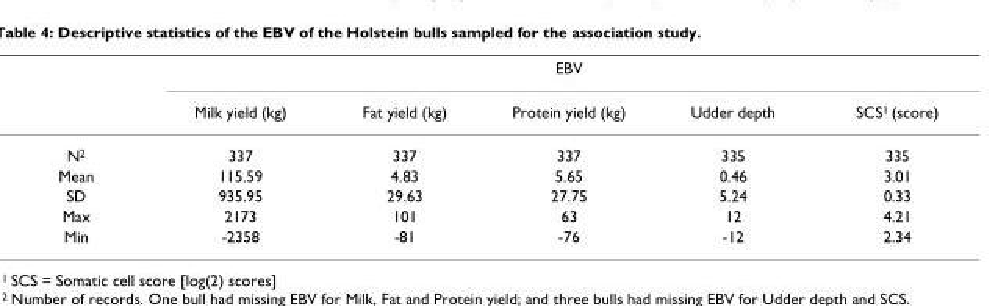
<table><thead><tr><td rowspan="2"></td><td colspan="5">EBV</td></tr><tr><td>Milk yield (kg)</td><td>Fat yield (kg)</td><td>Protein yield (kg)</td><td>Udder depth</td><td>SCS<sup>1</sup> (score)</td></tr></thead><tbody><tr><td>N<sup>2</sup></td><td>337</td><td>337</td><td>337</td><td>335</td><td>335</td></tr><tr><td>Mean</td><td>115.59</td><td>4.83</td><td>5.65</td><td>0.46</td><td>3.01</td></tr><tr><td>SD</td><td>935.95</td><td>29.63</td><td>27.75</td><td>5.24</td><td>0.33</td></tr><tr><td>Max</td><td>2173</td><td>101</td><td>63</td><td>12</td><td>4.21</td></tr><tr><td>Min</td><td>-2358</td><td>-81</td><td>-76</td><td>-12</td><td>2.34</td></tr></tbody></table>